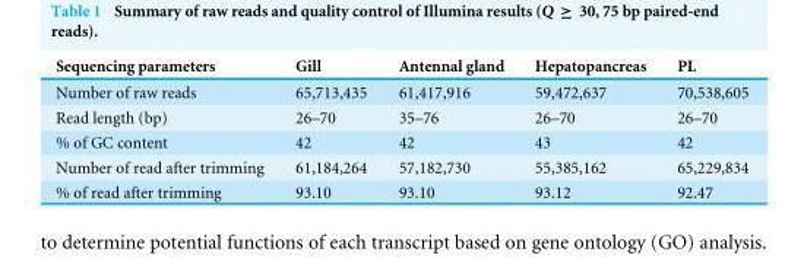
<table><thead><tr><td>Sequencing parameters</td><td>Gill</td><td>Antennal gland</td><td>Hepatopancreas</td><td>PL</td></tr></thead><tbody><tr><td>Number of raw reads</td><td>65,713,435</td><td>61,417,916</td><td>59,472,637</td><td>70,538,605</td></tr><tr><td>Read length (bp)</td><td>26–70</td><td>35–76</td><td>26–70</td><td>26–70</td></tr><tr><td>% of GC content</td><td>42</td><td>42</td><td>43</td><td>42</td></tr><tr><td>Number of read after trimming</td><td>61,184,264</td><td>57,182,730</td><td>55,385,162</td><td>65,229,834</td></tr><tr><td>% of read after trimming</td><td>93.10</td><td>93.10</td><td>93.12</td><td>92.47</td></tr></tbody></table>